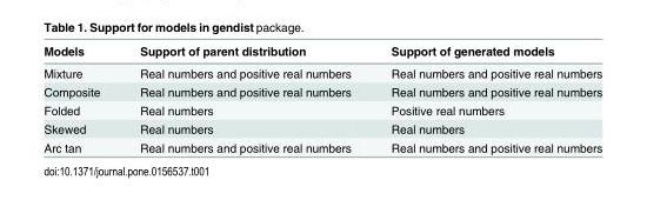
<table><thead><tr><td>Models</td><td>Support of parent distribution</td><td>Support of generated models</td></tr></thead><tbody><tr><td>Mixture</td><td>Real numbers and positive real numbers</td><td>Real numbers and positive real numbers</td></tr><tr><td>Composite</td><td>Real numbers and positive real numbers</td><td>Real numbers and positive real numbers</td></tr><tr><td>Folded</td><td>Real numbers</td><td>Positive real numbers</td></tr><tr><td>Skewed</td><td>Real numbers</td><td>Real numbers</td></tr><tr><td>Arc tan</td><td>Real numbers and positive real numbers</td><td>Real numbers and positive real numbers</td></tr></tbody></table>